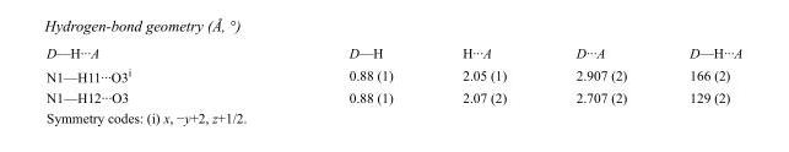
<table><tbody><tr><td>D—H···A</td><td>D—H</td><td>H···A</td><td>D···A</td><td>D—H···A</td></tr><tr><td>N1—H11···O3<sup>i</sup></td><td>0.88 (1)</td><td>2.05 (1)</td><td>2.907 (2)</td><td>166 (2)</td></tr><tr><td>N1—H12···O3</td><td>0.88 (1)</td><td>2.07 (2)</td><td>2.707 (2)</td><td>129 (2)</td></tr></tbody></table>